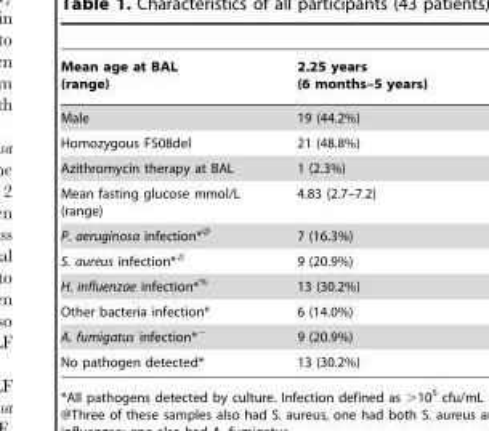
<table><thead><tr><td>Mean age at BAL (range)</td><td>2.25 years (6 months–5 years)</td></tr></thead><tbody><tr><td>Male</td><td>19 (44.2%)</td></tr><tr><td>Homozygous F508del</td><td>21 (48.8%)</td></tr><tr><td>Azithromycin therapy at BAL</td><td>1 (2.3%)</td></tr><tr><td>Mean fasting glucose mmol/L (range)</td><td>4.83 (2.7–7.2)</td></tr><tr><td>P. aeruginosa infection*<sup>@</sup></td><td>7 (16.3%)</td></tr><tr><td>S. aureus infection*#</td><td>9 (20.9%)</td></tr><tr><td>H. influenzae infection*%</td><td>13 (30.2%)</td></tr><tr><td>Other bacteria infection*</td><td>6 (14.0%)</td></tr><tr><td>A. fumigatus infection*∼</td><td>9 (20.9%)</td></tr><tr><td>No pathogen detected*</td><td>13 (30.2%)</td></tr></tbody></table>